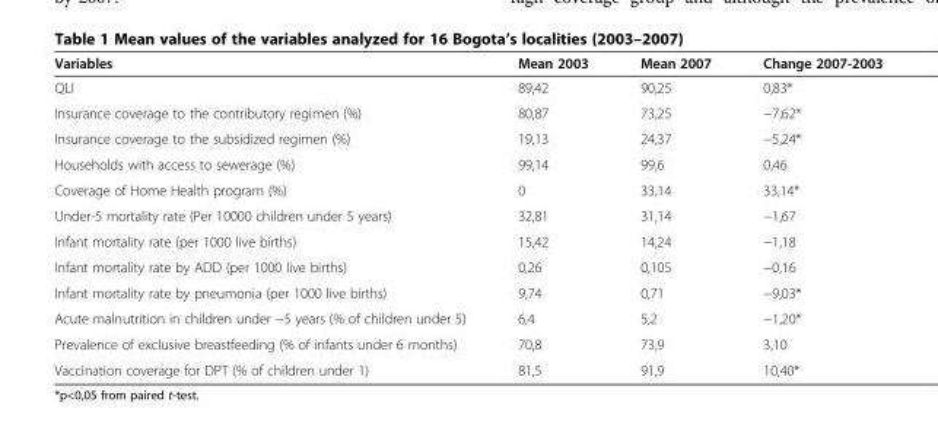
<table><thead><tr><td>Variables</td><td>Mean 2003</td><td>Mean 2007</td><td>Change 2007-2003</td></tr></thead><tbody><tr><td>QLI</td><td>89,42</td><td>90,25</td><td>0,83*</td></tr><tr><td>Insurance coverage to the contributory regimen (%)</td><td>80,87</td><td>73,25</td><td>−7,62*</td></tr><tr><td>Insurance coverage to the subsidized regimen (%)</td><td>19,13</td><td>24,37</td><td>−5,24*</td></tr><tr><td>Households with access to sewerage (%)</td><td>99,14</td><td>99,6</td><td>0,46</td></tr><tr><td>Coverage of Home Health program (%)</td><td>0</td><td>33,14</td><td>33,14*</td></tr><tr><td>Under-5 mortality rate (Per 10000 children under 5 years)</td><td>32,81</td><td>31,14</td><td>−1,67</td></tr><tr><td>Infant mortality rate (per 1000 live births)</td><td>15,42</td><td>14,24</td><td>−1,18</td></tr><tr><td>Infant mortality rate by ADD (per 1000 live births)</td><td>0,26</td><td>0,105</td><td>−0,16</td></tr><tr><td>Infant mortality rate by pneumonia (per 1000 live births)</td><td>9,74</td><td>0,71</td><td>−9,03*</td></tr><tr><td>Acute malnutrition in children under −5 years (% of children under 5)</td><td>6,4</td><td>5,2</td><td>−1,20*</td></tr><tr><td>Prevalence of exclusive breastfeeding (% of infants under 6 months)</td><td>70,8</td><td>73,9</td><td>3,10</td></tr><tr><td>Vaccination coverage for DPT (% of children under 1)</td><td>81,5</td><td>91,9</td><td>10,40*</td></tr></tbody></table>